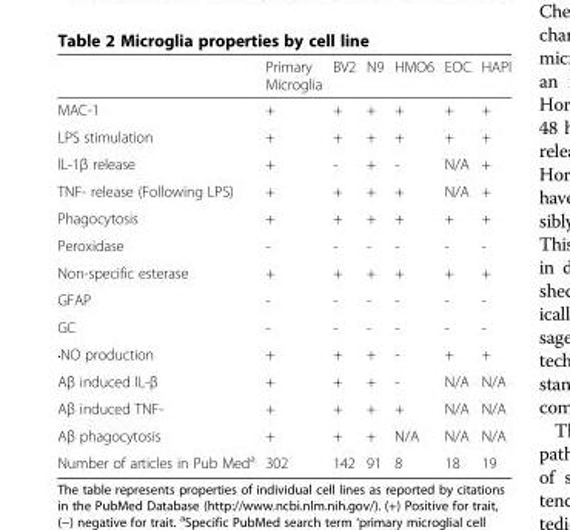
<table><thead><tr><td></td><td>Primary Microglia</td><td>BV2</td><td>N9</td><td>HMO6</td><td>EOC</td><td>HAPI</td></tr></thead><tbody><tr><td>MAC-1</td><td>+</td><td>+</td><td>+</td><td>+</td><td>+</td><td>+</td></tr><tr><td>LPS stimulation</td><td>+</td><td>+</td><td>+</td><td>+</td><td>+</td><td>+</td></tr><tr><td>lL-1β release</td><td>+</td><td>-</td><td>+</td><td>-</td><td>N/A</td><td>+</td></tr><tr><td>TNF- release (Following LPS)</td><td>+</td><td>+</td><td>+</td><td>+</td><td>N/A</td><td>+</td></tr><tr><td>Phagocytosis</td><td>+</td><td>+</td><td>+</td><td>+</td><td>+</td><td>+</td></tr><tr><td>Peroxidase</td><td>-</td><td>-</td><td>-</td><td>-</td><td>-</td><td>-</td></tr><tr><td>Non-specific esterase</td><td>+</td><td>+</td><td>+</td><td>+</td><td>+</td><td>+</td></tr><tr><td>GFAP</td><td>-</td><td>-</td><td>-</td><td>-</td><td>-</td><td>-</td></tr><tr><td>GC</td><td>-</td><td>-</td><td>-</td><td>-</td><td>-</td><td>-</td></tr><tr><td>•NO production</td><td>+</td><td>+</td><td>+</td><td>-</td><td>+</td><td>+</td></tr><tr><td>Aβ induced lL-β</td><td>+</td><td>+</td><td>+</td><td>-</td><td>N/A</td><td>N/A</td></tr><tr><td>Aβ induced TNF-</td><td>+</td><td>+</td><td>+</td><td>+</td><td>N/A</td><td>N/A</td></tr><tr><td>Aβ phagocytosis</td><td>+</td><td>+</td><td>+</td><td>N/A</td><td>N/A</td><td>N/A</td></tr><tr><td>Number of articles in Pub Med<sup>a</sup></td><td>302</td><td>142</td><td>91</td><td>8</td><td>18</td><td>19</td></tr></tbody></table>